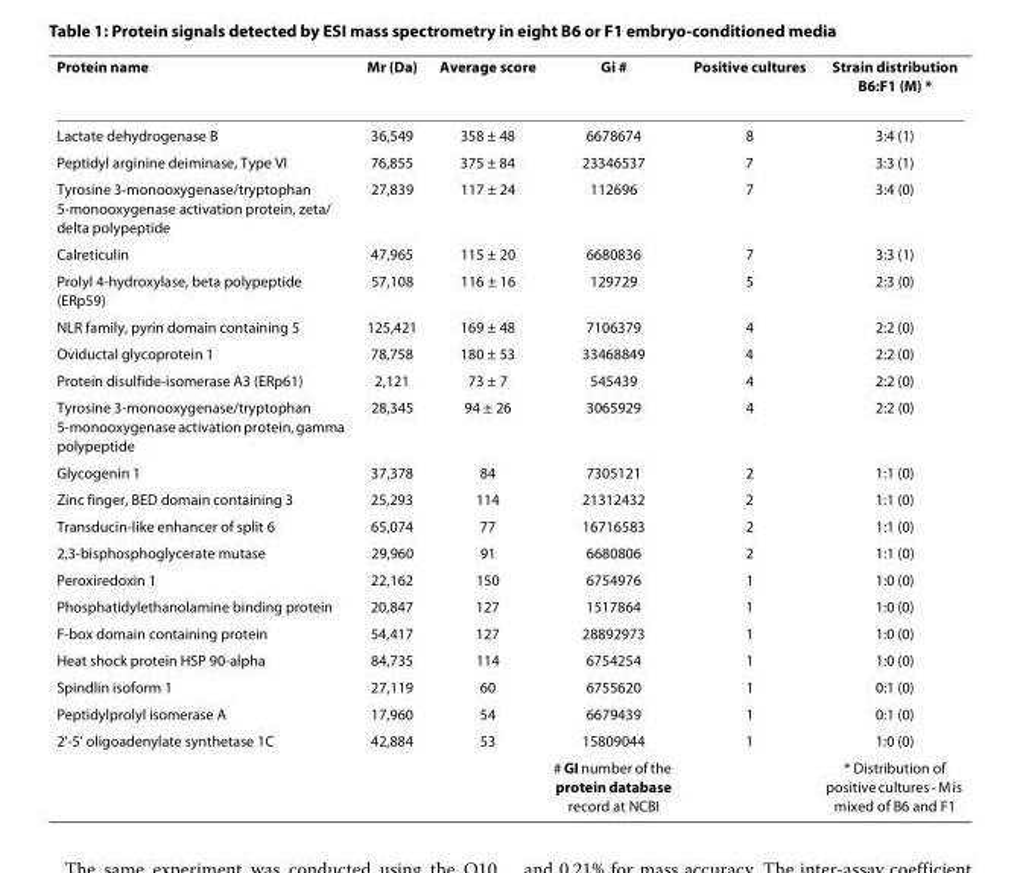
<table><thead><tr><td>Protein name</td><td>Mr (Da)</td><td>Average score</td><td>Gi #</td><td>Positive cultures</td><td>Strain distribution B6:F1 (M) *</td></tr></thead><tbody><tr><td>Lactate dehydrogenase B</td><td>36,549</td><td>358 ± 48</td><td>6678674</td><td>8</td><td>3:4 (1)</td></tr><tr><td>Peptidyl arginine deiminase, Type VI</td><td>76,855</td><td>375 ± 84</td><td>23346537</td><td>7</td><td>3:3 (1)</td></tr><tr><td>Tyrosine 3-monooxygenase/tryptophan 5-monooxygenase activation protein, zeta/ delta polypeptide</td><td>27,839</td><td>117 ± 24</td><td>112696</td><td>7</td><td>3:4 (0)</td></tr><tr><td>Calreticulin</td><td>47,965</td><td>115 ± 20</td><td>6680836</td><td>7</td><td>3:3 (1)</td></tr><tr><td>Prolyl 4-hydroxylase, beta polypeptide (ERp59)</td><td>57,108</td><td>116 ± 16</td><td>129729</td><td>5</td><td>2:3 (0)</td></tr><tr><td>NLR family, pyrin domain containing 5</td><td>125,421</td><td>169 ± 48</td><td>7106379</td><td>4</td><td>2:2 (0)</td></tr><tr><td>Oviductal glycoprotein 1</td><td>78,758</td><td>180 ± 53</td><td>33468849</td><td>4</td><td>2:2 (0)</td></tr><tr><td>Protein disulfide-isomerase A3 (ERp61)</td><td>2,121</td><td>73 ± 7</td><td>545439</td><td>4</td><td>2:2 (0)</td></tr><tr><td>Tyrosine 3-monooxygenase/tryptophan 5-monooxygenase activation protein, gamma polypeptide</td><td>28,345</td><td>94 ± 26</td><td>3065929</td><td>4</td><td>2:2 (0)</td></tr><tr><td>Glycogenin 1</td><td>37,378</td><td>84</td><td>7305121</td><td>2</td><td>1:1 (0)</td></tr><tr><td>Zinc finger, BED domain containing 3</td><td>25,293</td><td>114</td><td>21312432</td><td>2</td><td>1:1 (0)</td></tr><tr><td>Transducin-like enhancer of split 6</td><td>65,074</td><td>77</td><td>16716583</td><td>2</td><td>1:1 (0)</td></tr><tr><td>2,3-bisphosphoglycerate mutase</td><td>29,960</td><td>91</td><td>6680806</td><td>2</td><td>1:1 (0)</td></tr><tr><td>Peroxiredoxin 1</td><td>22,162</td><td>150</td><td>6754976</td><td>1</td><td>1:0 (0)</td></tr><tr><td>Phosphatidylethanolamine binding protein</td><td>20,847</td><td>127</td><td>1517864</td><td>1</td><td>1:0 (0)</td></tr><tr><td>F-box domain containing protein</td><td>54,417</td><td>127</td><td>28892973</td><td>1</td><td>1:0 (0)</td></tr><tr><td>Heat shock protein HSP 90-alpha</td><td>84,735</td><td>114</td><td>6754254</td><td>1</td><td>1:0 (0)</td></tr><tr><td>Spindlin isoform 1</td><td>27,119</td><td>60</td><td>6755620</td><td>1</td><td>0:1 (0)</td></tr><tr><td>Peptidylprolyl isomerase A</td><td>17,960</td><td>54</td><td>6679439</td><td>1</td><td>0:1 (0)</td></tr><tr><td rowspan="2">2&#x27;-5&#x27; oligoadenylate synthetase 1C</td><td>42,884</td><td>53</td><td>15809044</td><td>1</td><td>1:0 (0)</td></tr><tr><td></td><td></td><td># GI number of the protein database record at NCBI</td><td></td><td>* Distribution of positive cultures - M is mixed of B6 and F1</td></tr></tbody></table>